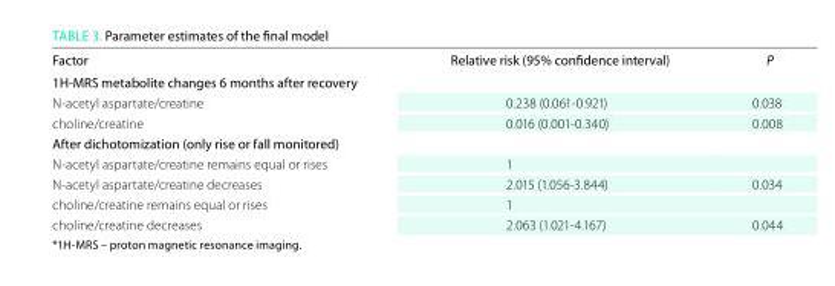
<table><thead><tr><td>Factor</td><td>Relative risk (95% confidence interval)</td><td>P</td></tr></thead><tbody><tr><td colspan="3">1H-MRS metabolite changes 6 months after recovery</td></tr><tr><td>N-acetyl aspartate/creatine</td><td>0.238 (0.061-0.921)</td><td>0.038</td></tr><tr><td>choline/creatine</td><td>0.016 (0.001-0.340)</td><td>0.008</td></tr><tr><td colspan="3">After dichotomization (only rise or fall monitored)</td></tr><tr><td>N-acetyl aspartate/creatine remains equal or rises</td><td>1</td><td></td></tr><tr><td>N-acetyl aspartate/creatine decreases</td><td>2.015 (1.056-3.844)</td><td>0.034</td></tr><tr><td>choline/creatine remains equal or rises</td><td>1</td><td></td></tr><tr><td>choline/creatine decreases</td><td>2.063 (1.021-4.167)</td><td>0.044</td></tr></tbody></table>